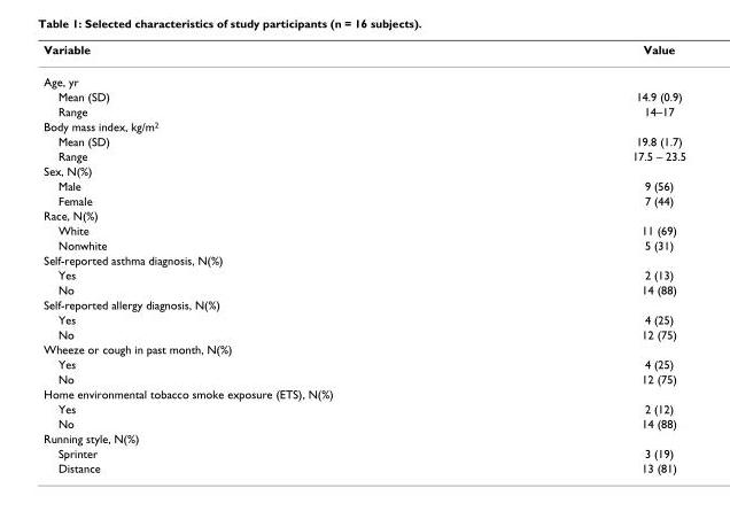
<table><thead><tr><td>Variable</td><td>Value</td></tr></thead><tbody><tr><td colspan="2">Age, yr</td></tr><tr><td>Mean (SD)</td><td>14.9 (0.9)</td></tr><tr><td>Range</td><td>14–17</td></tr><tr><td colspan="2">Body mass index, kg/m<sup>2</sup></td></tr><tr><td>Mean (SD)</td><td>19.8 (1.7)</td></tr><tr><td>Range</td><td>17.5 – 23.5</td></tr><tr><td colspan="2">Sex, N(%)</td></tr><tr><td>Male</td><td>9 (56)</td></tr><tr><td>Female</td><td>7 (44)</td></tr><tr><td colspan="2">Race, N(%)</td></tr><tr><td>White</td><td>11 (69)</td></tr><tr><td>Nonwhite</td><td>5 (31)</td></tr><tr><td colspan="2">Self-reported asthma diagnosis, N(%)</td></tr><tr><td>Yes</td><td>2 (13)</td></tr><tr><td>No</td><td>14 (88)</td></tr><tr><td colspan="2">Self-reported allergy diagnosis, N(%)</td></tr><tr><td>Yes</td><td>4 (25)</td></tr><tr><td>No</td><td>12 (75)</td></tr><tr><td colspan="2">Wheeze or cough in past month, N(%)</td></tr><tr><td>Yes</td><td>4 (25)</td></tr><tr><td>No</td><td>12 (75)</td></tr><tr><td colspan="2">Home environmental tobacco smoke exposure (ETS), N(%)</td></tr><tr><td>Yes</td><td>2 (12)</td></tr><tr><td>No</td><td>14 (88)</td></tr><tr><td colspan="2">Running style, N(%)</td></tr><tr><td>Sprinter</td><td>3 (19)</td></tr><tr><td>Distance</td><td>13 (81)</td></tr></tbody></table>